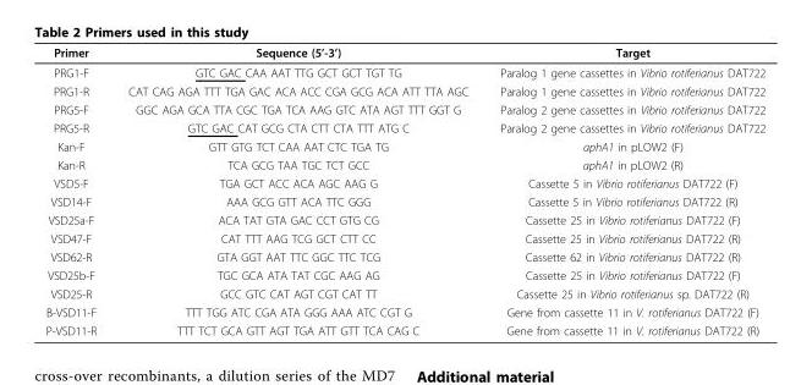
<table><thead><tr><td>Primer</td><td>Sequence (5’-3’)</td><td>Target</td></tr></thead><tbody><tr><td>PRG1-F</td><td>GTC GAC CAA AAT TTG GCT GCT TGT TG</td><td>Paralog 1 gene cassettes in Vibrio rotiferianus DAT722</td></tr><tr><td>PRG1-R</td><td>CAT CAG AGA TTT TGA GAC ACA ACC CGA GCG ACA ATT TTA AGC</td><td>Paralog 1 gene cassettes in Vibrio rotiferianus DAT722</td></tr><tr><td>PRG5-F</td><td>GGC AGA GCA TTA CGC TGA TCA AAG GTC ATA AGT TTT GGT G</td><td>Paralog 2 gene cassettes in Vibrio rotiferianus DAT722</td></tr><tr><td>PRG5-R</td><td>GTC GAC CAT GCG CTA CTT CTA TTT ATG C</td><td>Paralog 2 gene cassettes in Vibrio rotiferianus DAT722</td></tr><tr><td>Kan-F</td><td>GTT GTG TCT CAA AAT CTC TGA TG</td><td>aphA1 in pLOW2 (F)</td></tr><tr><td>Kan-R</td><td>TCA GCG TAA TGC TCT GCC</td><td>aphA1 in pLOW2 (R)</td></tr><tr><td>VSD5-F</td><td>TGA GCT ACC ACA AGC AAG G</td><td>Cassette 5 in Vibrio rotiferianus DAT722 (F)</td></tr><tr><td>VSD14-F</td><td>AAA GCG GTT ACA TTC GGG</td><td>Cassette 5 in Vibrio rotiferianus DAT722 (R)</td></tr><tr><td>VSD25a-F</td><td>ACA TAT GTA GAC CCT GTG CG</td><td>Cassette 25 in Vibrio rotiferianus DAT722 (F)</td></tr><tr><td>VSD47-F</td><td>CAT TTT AAG TCG GCT CTT CC</td><td>Cassette 25 in Vibrio rotiferianus DAT722 (R)</td></tr><tr><td>VSD62-R</td><td>GTA GGT AAT TTC GGC TTC TCG</td><td>Cassette 62 in Vibrio rotiferianus DAT722 (R)</td></tr><tr><td>VSD25b-F</td><td>TGC GCA ATA TAT CGC AAG AG</td><td>Cassette 25 in Vibrio rotiferianus DAT722 (F)</td></tr><tr><td>VSD25-R</td><td>GCC GTC CAT AGT CGT CAT TT</td><td>Cassette 25 in Vibrio rotiferianus sp. DAT722 (R)</td></tr><tr><td>B-VSD11-F</td><td>TTT TGG ATC CGA ATA GGG AAA ATC CGT G</td><td>Gene from cassette 11 in V. rotiferianus DAT722 (F)</td></tr><tr><td>P-VSD11-R</td><td>TTT TCT GCA GTT AGT TGA ATT GTT TCA CAG C</td><td>Gene from cassette 11 in V. rotiferianus DAT722 (R)</td></tr></tbody></table>